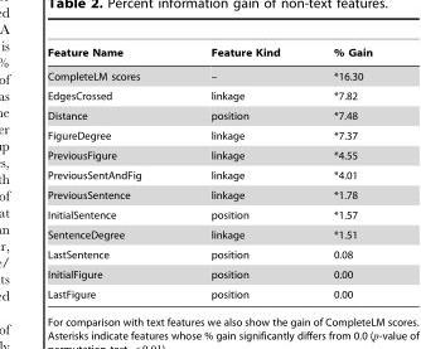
<table><thead><tr><td>Feature Name</td><td>Feature Kind</td><td>% Gain</td></tr></thead><tbody><tr><td>CompleteLM scores</td><td>–</td><td>*16.30</td></tr><tr><td>EdgesCrossed</td><td>linkage</td><td>*7.82</td></tr><tr><td>Distance</td><td>position</td><td>*7.48</td></tr><tr><td>FigureDegree</td><td>linkage</td><td>*7.37</td></tr><tr><td>PreviousFigure</td><td>linkage</td><td>*4.55</td></tr><tr><td>PreviousSentAndFig</td><td>linkage</td><td>*4.01</td></tr><tr><td>PreviousSentence</td><td>linkage</td><td>*1.78</td></tr><tr><td>InitialSentence</td><td>position</td><td>*1.57</td></tr><tr><td>SentenceDegree</td><td>linkage</td><td>*1.51</td></tr><tr><td>LastSentence</td><td>position</td><td>0.08</td></tr><tr><td>InitialFigure</td><td>position</td><td>0.00</td></tr><tr><td>LastFigure</td><td>position</td><td>0.00</td></tr></tbody></table>